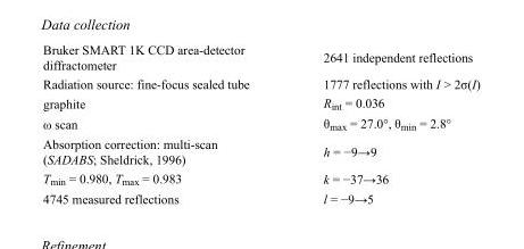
<table><tbody><tr><td>Bruker SMART 1K CCD area-detector diffractometer</td><td>2641 independent reflections</td></tr><tr><td>Radiation source: fine-focus sealed tube</td><td>1777 reflections with I &gt; 2σ(I)</td></tr><tr><td>graphite</td><td>R<sub>int</sub> = 0.036</td></tr><tr><td>ω scan</td><td>θ<sub>max</sub> = 27.0°, θ<sub>min</sub> = 2.8°</td></tr><tr><td>Absorption correction: multi-scan (SADABS; Sheldrick, 1996)</td><td>h = −9→9</td></tr><tr><td>T<sub>min</sub> = 0.980, T<sub>max</sub> = 0.983</td><td>k = −37→36</td></tr><tr><td>4745 measured reflections</td><td>l = −9→5</td></tr></tbody></table>